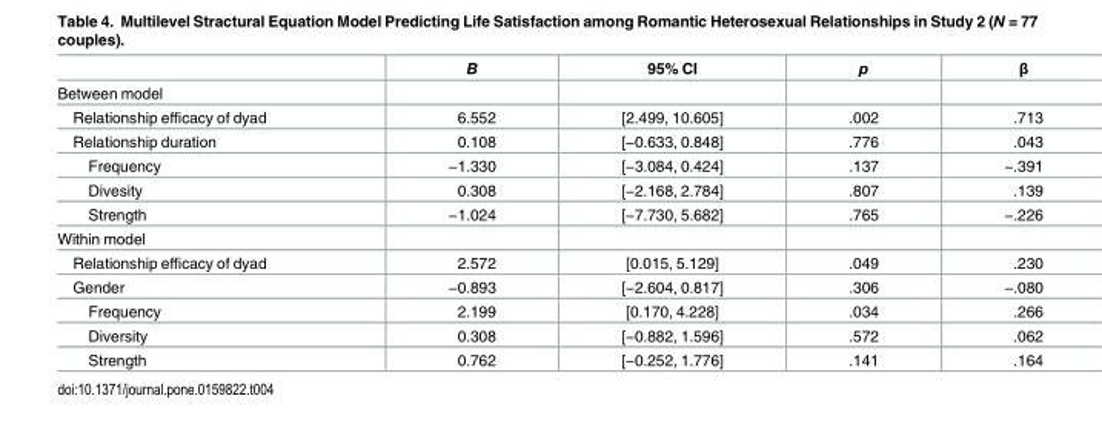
<table><thead><tr><td></td><td>B</td><td>95% CI</td><td>p</td><td>β</td></tr></thead><tbody><tr><td colspan="5">Between model</td></tr><tr><td>Relationship efficacy of dyad</td><td>6.552</td><td>[2.499, 10.605]</td><td>.002</td><td>.713</td></tr><tr><td>Relationship duration</td><td>0.108</td><td>[−0.633, 0.848]</td><td>.776</td><td>.043</td></tr><tr><td>Frequency</td><td>−1.330</td><td>[−3.084, 0.424]</td><td>.137</td><td>−.391</td></tr><tr><td>Divesity</td><td>0.308</td><td>[−2.168, 2.784]</td><td>.807</td><td>.139</td></tr><tr><td>Strength</td><td>−1.024</td><td>[−7.730, 5.682]</td><td>.765</td><td>−.226</td></tr><tr><td colspan="5">Within model</td></tr><tr><td>Relationship efficacy of dyad</td><td>2.572</td><td>[0.015, 5.129]</td><td>.049</td><td>.230</td></tr><tr><td>Gender</td><td>−0.893</td><td>[−2.604, 0.817]</td><td>.306</td><td>−.080</td></tr><tr><td>Frequency</td><td>2.199</td><td>[0.170, 4.228]</td><td>.034</td><td>.266</td></tr><tr><td>Diversity</td><td>0.308</td><td>[−0.882, 1.596]</td><td>.572</td><td>.062</td></tr><tr><td>Strength</td><td>0.762</td><td>[−0.252, 1.776]</td><td>.141</td><td>.164</td></tr></tbody></table>